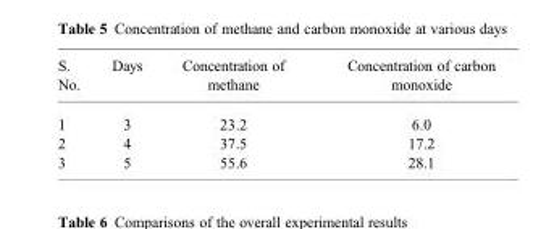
<table><thead><tr><td>S. No.</td><td>Days</td><td>Concentration of methane</td><td>Concentration of carbon monoxide</td></tr></thead><tbody><tr><td>1</td><td>3</td><td>23.2</td><td>6.0</td></tr><tr><td>2</td><td>4</td><td>37.5</td><td>17.2</td></tr><tr><td>3</td><td>5</td><td>55.6</td><td>28.1</td></tr></tbody></table>